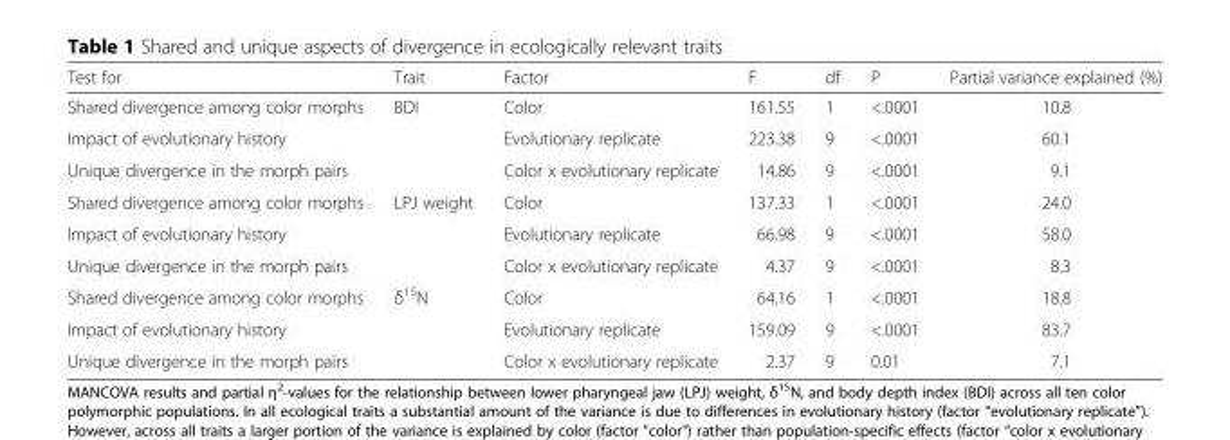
<table><thead><tr><td>Test for</td><td>Trait</td><td>Factor</td><td>F</td><td>df</td><td>P</td><td>Partial variance explained (%)</td></tr></thead><tbody><tr><td>Shared divergence among color morphs</td><td rowspan="3">BDI</td><td>Color</td><td>161.55</td><td>1</td><td>&lt;.0001</td><td>10.8</td></tr><tr><td>Impact of evolutionary history</td><td>Evolutionary replicate</td><td>223.38</td><td>9</td><td>&lt;.0001</td><td>60.1</td></tr><tr><td>Unique divergence in the morph pairs</td><td>Color x evolutionary replicate</td><td>14.86</td><td>9</td><td>&lt;.0001</td><td>9.1</td></tr><tr><td>Shared divergence among color morphs</td><td rowspan="3">LPJ weight</td><td>Color</td><td>137.33</td><td>1</td><td>&lt;.0001</td><td>24.0</td></tr><tr><td>Impact of evolutionary history</td><td>Evolutionary replicate</td><td>66.98</td><td>9</td><td>&lt;.0001</td><td>58.0</td></tr><tr><td>Unique divergence in the morph pairs</td><td>Color x evolutionary replicate</td><td>4.37</td><td>9</td><td>&lt;.0001</td><td>8.3</td></tr><tr><td>Shared divergence among color morphs</td><td rowspan="3">δ<sup>15</sup>N</td><td>Color</td><td>64.16</td><td>1</td><td>&lt;.0001</td><td>18.8</td></tr><tr><td>Impact of evolutionary history</td><td>Evolutionary replicate</td><td>159.09</td><td>9</td><td>&lt;.0001</td><td>83.7</td></tr><tr><td>Unique divergence in the morph pairs</td><td>Color x evolutionary replicate</td><td>2.37</td><td>9</td><td>0.01</td><td>7.1</td></tr></tbody></table>